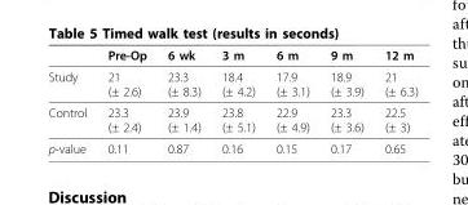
<table><thead><tr><td></td><td>Pre-Op</td><td>6 wk</td><td>3 m</td><td>6 m</td><td>9 m</td><td>12 m</td></tr></thead><tbody><tr><td>Study</td><td>21 (± 2.6)</td><td>23.3 (± 8.3)</td><td>18.4 (± 4.2)</td><td>17.9 (± 3.1)</td><td>18.9 (± 3.9)</td><td>21 (± 6.3)</td></tr><tr><td>Control</td><td>23.3 (± 2.4)</td><td>23.9 (± 1.4)</td><td>23.8 (± 5.1)</td><td>22.9 (± 4.9)</td><td>23.3 (± 3.6)</td><td>22.5 (± 3)</td></tr><tr><td>p-value</td><td>0.11</td><td>0.87</td><td>0.16</td><td>0.15</td><td>0.17</td><td>0.65</td></tr></tbody></table>